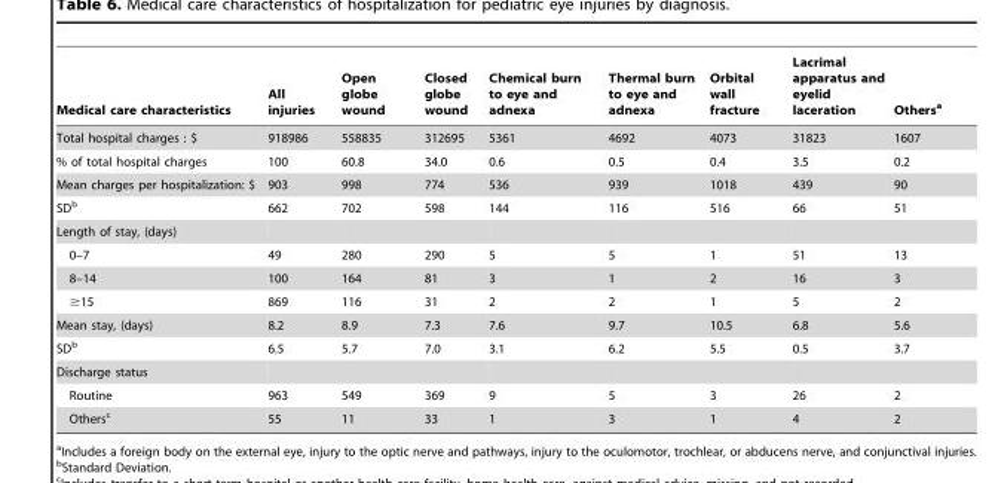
<table><thead><tr><td>Medical care characteristics</td><td>All injuries</td><td>Open globe wound</td><td>Closed globe wound</td><td>Chemical burn to eye and adnexa</td><td>Thermal burn to eye and adnexa</td><td>Orbital wall fracture</td><td>Lacrimal apparatus and eyelid laceration</td><td>Others<sup>a</sup></td></tr></thead><tbody><tr><td>Total hospital charges : $</td><td>918986</td><td>558835</td><td>312695</td><td>5361</td><td>4692</td><td>4073</td><td>31823</td><td>1607</td></tr><tr><td>% of total hospital charges</td><td>100</td><td>60.8</td><td>34.0</td><td>0.6</td><td>0.5</td><td>0.4</td><td>3.5</td><td>0.2</td></tr><tr><td>Mean charges per hospitalization: $</td><td>903</td><td>998</td><td>774</td><td>536</td><td>939</td><td>1018</td><td>439</td><td>90</td></tr><tr><td>SD<sup>b</sup></td><td>662</td><td>702</td><td>598</td><td>144</td><td>116</td><td>516</td><td>66</td><td>51</td></tr><tr><td colspan="9">Length of stay, (days)</td></tr><tr><td>0–7</td><td>49</td><td>280</td><td>290</td><td>5</td><td>5</td><td>1</td><td>51</td><td>13</td></tr><tr><td>8–14</td><td>100</td><td>164</td><td>81</td><td>3</td><td>1</td><td>2</td><td>16</td><td>3</td></tr><tr><td>≥15</td><td>869</td><td>116</td><td>31</td><td>2</td><td>2</td><td>1</td><td>5</td><td>2</td></tr><tr><td>Mean stay, (days)</td><td>8.2</td><td>8.9</td><td>7.3</td><td>7.6</td><td>9.7</td><td>10.5</td><td>6.8</td><td>5.6</td></tr><tr><td>SD<sup>b</sup></td><td>6.5</td><td>5.7</td><td>7.0</td><td>3.1</td><td>6.2</td><td>5.5</td><td>0.5</td><td>3.7</td></tr><tr><td colspan="9">Discharge status</td></tr><tr><td>Routine</td><td>963</td><td>549</td><td>369</td><td>9</td><td>5</td><td>3</td><td>26</td><td>2</td></tr><tr><td>Others<sup>c</sup></td><td>55</td><td>11</td><td>33</td><td>1</td><td>3</td><td>1</td><td>4</td><td>2</td></tr></tbody></table>